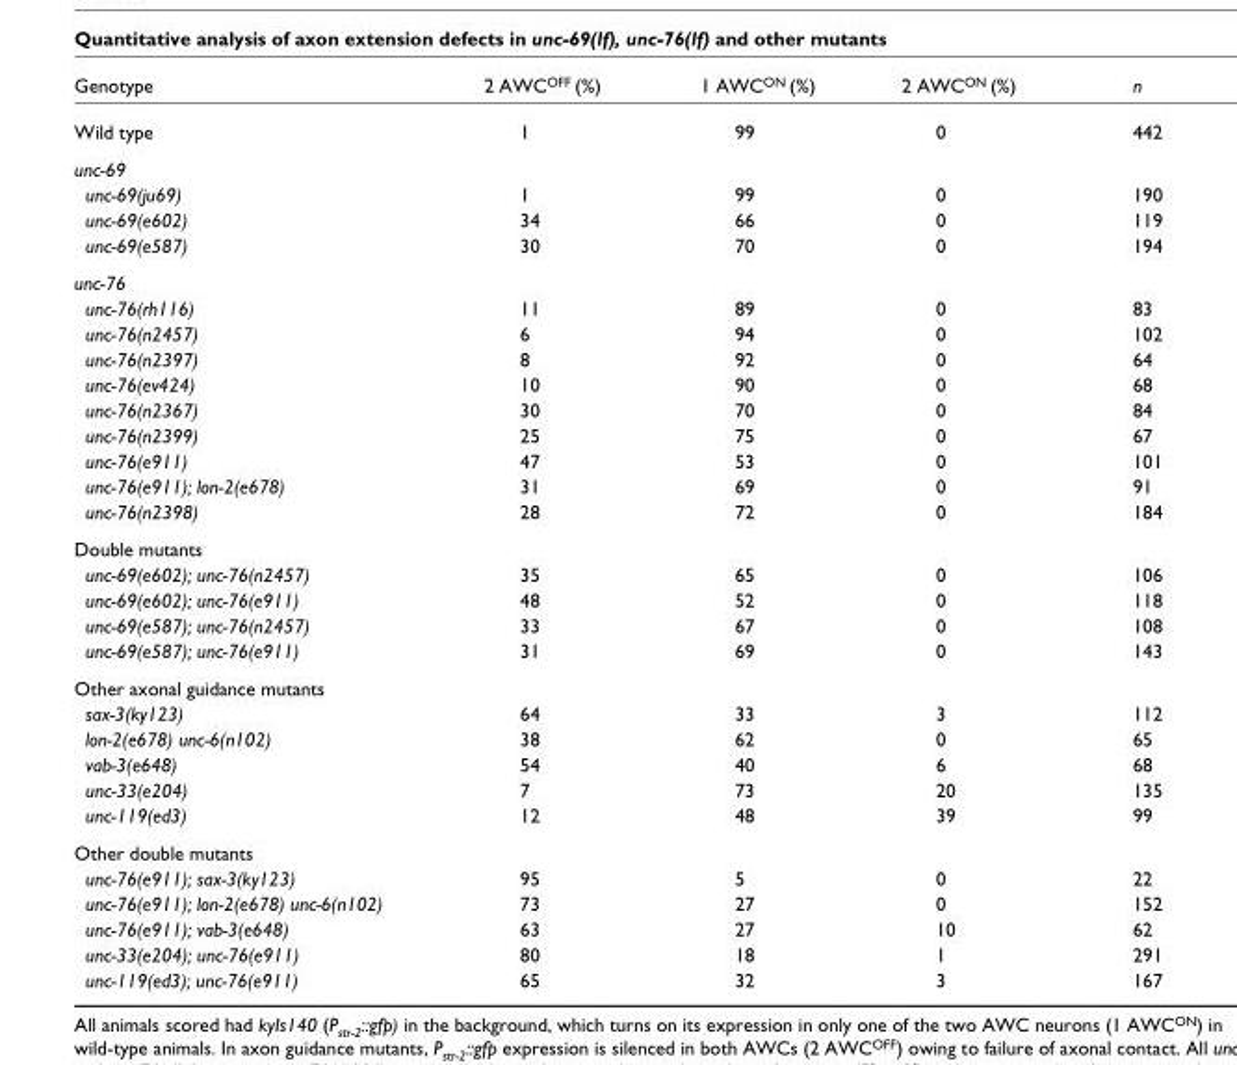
<table><thead><tr><td>Genotype</td><td>2 AWCOFF (%)</td><td>1 AWCON (%)</td><td>2 AWCON (%)</td><td>n</td></tr></thead><tbody><tr><td>Wild type</td><td>1</td><td>99</td><td>0</td><td>442</td></tr><tr><td colspan="5">unc-69</td></tr><tr><td>unc-69(ju69)</td><td>1</td><td>99</td><td>0</td><td>190</td></tr><tr><td>unc-69(e602)</td><td>34</td><td>66</td><td>0</td><td>119</td></tr><tr><td>unc-69(e587)</td><td>30</td><td>70</td><td>0</td><td>194</td></tr><tr><td colspan="5">unc-76</td></tr><tr><td>unc-76(rh116)</td><td>11</td><td>89</td><td>0</td><td>83</td></tr><tr><td>unc-76(n2457)</td><td>6</td><td>94</td><td>0</td><td>102</td></tr><tr><td>unc-76(n2397)</td><td>8</td><td>92</td><td>0</td><td>64</td></tr><tr><td>unc-76(ev424)</td><td>10</td><td>90</td><td>0</td><td>68</td></tr><tr><td>unc-76(n2367)</td><td>30</td><td>70</td><td>0</td><td>84</td></tr><tr><td>unc-76(n2399)</td><td>25</td><td>75</td><td>0</td><td>67</td></tr><tr><td>unc-76(e911)</td><td>47</td><td>53</td><td>0</td><td>101</td></tr><tr><td>unc-76(e911); lon-2(e678)</td><td>31</td><td>69</td><td>0</td><td>91</td></tr><tr><td>unc-76(n2398)</td><td>28</td><td>72</td><td>0</td><td>184</td></tr><tr><td colspan="5">Double mutants</td></tr><tr><td>unc-69(e602); unc-76(n2457)</td><td>35</td><td>65</td><td>0</td><td>106</td></tr><tr><td>unc-69(e602); unc-76(e911)</td><td>48</td><td>52</td><td>0</td><td>118</td></tr><tr><td>unc-69(e587); unc-76(n2457)</td><td>33</td><td>67</td><td>0</td><td>108</td></tr><tr><td>unc-69(e587); unc-76(e911)</td><td>31</td><td>69</td><td>0</td><td>143</td></tr><tr><td colspan="5">Other axonal guidance mutants</td></tr><tr><td>sax-3(ky123)</td><td>64</td><td>33</td><td>3</td><td>112</td></tr><tr><td>lon-2(e678) unc-6(n102)</td><td>38</td><td>62</td><td>0</td><td>65</td></tr><tr><td>vab-3(e648)</td><td>54</td><td>40</td><td>6</td><td>68</td></tr><tr><td>unc-33(e204)</td><td>7</td><td>73</td><td>20</td><td>135</td></tr><tr><td>unc-119(ed3)</td><td>12</td><td>48</td><td>39</td><td>99</td></tr><tr><td colspan="5">Other double mutants</td></tr><tr><td>unc-76(e911); sax-3(ky123)</td><td>95</td><td>5</td><td>0</td><td>22</td></tr><tr><td>unc-76(e911); lon-2(e678) unc-6(n102)</td><td>73</td><td>27</td><td>0</td><td>152</td></tr><tr><td>unc-76(e911); vab-3(e648)</td><td>63</td><td>27</td><td>10</td><td>62</td></tr><tr><td>unc-33(e204); unc-76(e911)</td><td>80</td><td>18</td><td>1</td><td>291</td></tr><tr><td>unc-119(ed3); unc-76(e911)</td><td>65</td><td>32</td><td>3</td><td>167</td></tr></tbody></table>